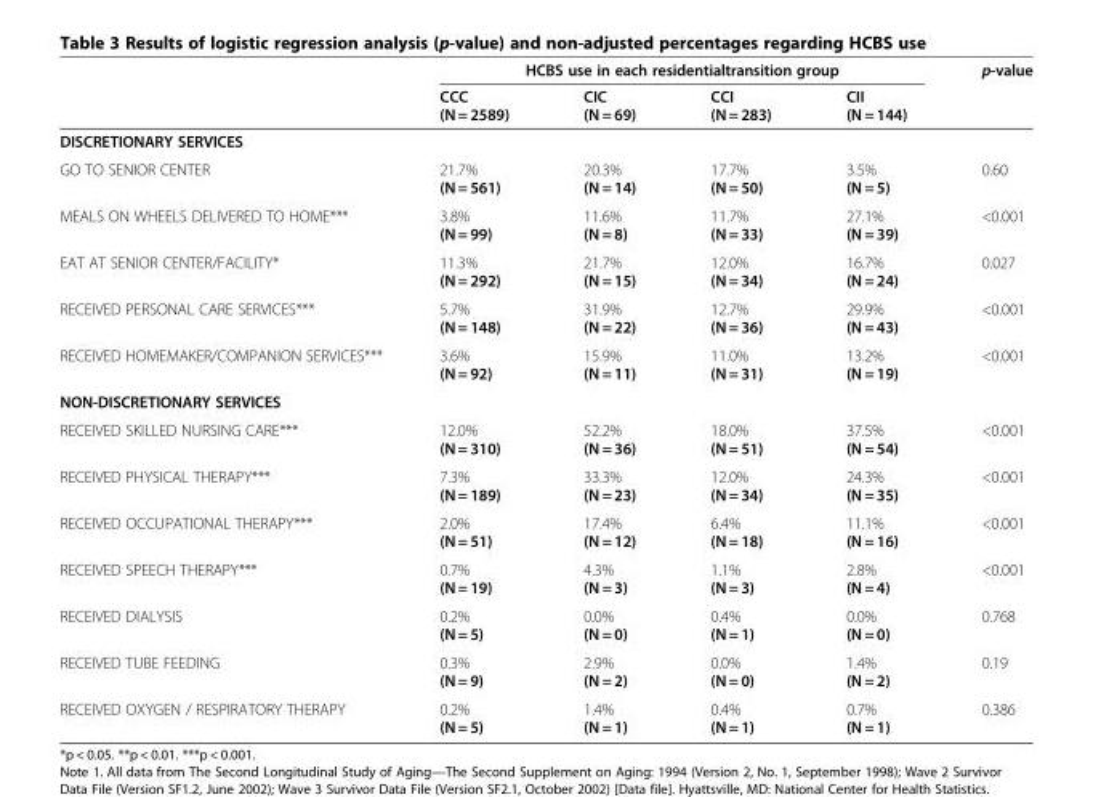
<table><thead><tr><td rowspan="2"></td><td colspan="4">HCBS use in each residentialtransition group</td><td rowspan="2">p-value</td></tr><tr><td>CCC (N = 2589)</td><td>CIC (N = 69)</td><td>CCI (N = 283)</td><td>CII (N = 144)</td></tr></thead><tbody><tr><td colspan="6">DISCRETIONARY SERVICES</td></tr><tr><td>GO TO SENIOR CENTER</td><td>21.7% (N = 561)</td><td>20.3% (N = 14)</td><td>17.7% (N = 50)</td><td>3.5% (N = 5)</td><td>0.60</td></tr><tr><td>MEALS ON WHEELS DELIVERED TO HOME***</td><td>3.8% (N = 99)</td><td>11.6% (N = 8)</td><td>11.7% (N = 33)</td><td>27.1% (N = 39)</td><td>&lt;0.001</td></tr><tr><td>EAT AT SENIOR CENTER/FACILITY*</td><td>11.3% (N = 292)</td><td>21.7% (N = 15)</td><td>12.0% (N = 34)</td><td>16.7% (N = 24)</td><td>0.027</td></tr><tr><td>RECEIVED PERSONAL CARE SERVICES***</td><td>5.7% (N = 148)</td><td>31.9% (N = 22)</td><td>12.7% (N = 36)</td><td>29.9% (N = 43)</td><td>&lt;0.001</td></tr><tr><td>RECEIVED HOMEMAKER/COMPANION SERVICES***</td><td>3.6% (N = 92)</td><td>15.9% (N = 11)</td><td>11.0% (N = 31)</td><td>13.2% (N = 19)</td><td>&lt;0.001</td></tr><tr><td colspan="6">NON-DISCRETIONARY SERVICES</td></tr><tr><td>RECEIVED SKILLED NURSING CARE***</td><td>12.0% (N = 310)</td><td>52.2% (N = 36)</td><td>18.0% (N = 51)</td><td>37.5% (N = 54)</td><td>&lt;0.001</td></tr><tr><td>RECEIVED PHYSICAL THERAPY***</td><td>7.3% (N = 189)</td><td>33.3% (N = 23)</td><td>12.0% (N = 34)</td><td>24.3% (N = 35)</td><td>&lt;0.001</td></tr><tr><td>RECEIVED OCCUPATIONAL THERAPY***</td><td>2.0% (N = 51)</td><td>17.4% (N = 12)</td><td>6.4% (N = 18)</td><td>11.1% (N = 16)</td><td>&lt;0.001</td></tr><tr><td>RECEIVED SPEECH THERAPY***</td><td>0.7% (N = 19)</td><td>4.3% (N = 3)</td><td>1.1% (N = 3)</td><td>2.8% (N = 4)</td><td>&lt;0.001</td></tr><tr><td>RECEIVED DIALYSIS</td><td>0.2% (N = 5)</td><td>0.0% (N = 0)</td><td>0.4% (N = 1)</td><td>0.0% (N = 0)</td><td>0.768</td></tr><tr><td>RECEIVED TUBE FEEDING</td><td>0.3% (N = 9)</td><td>2.9% (N = 2)</td><td>0.0% (N = 0)</td><td>1.4% (N = 2)</td><td>0.19</td></tr><tr><td>RECEIVED OXYGEN / RESPIRATORY THERAPY</td><td>0.2% (N = 5)</td><td>1.4% (N = 1)</td><td>0.4% (N = 1)</td><td>0.7% (N = 1)</td><td>0.386</td></tr></tbody></table>